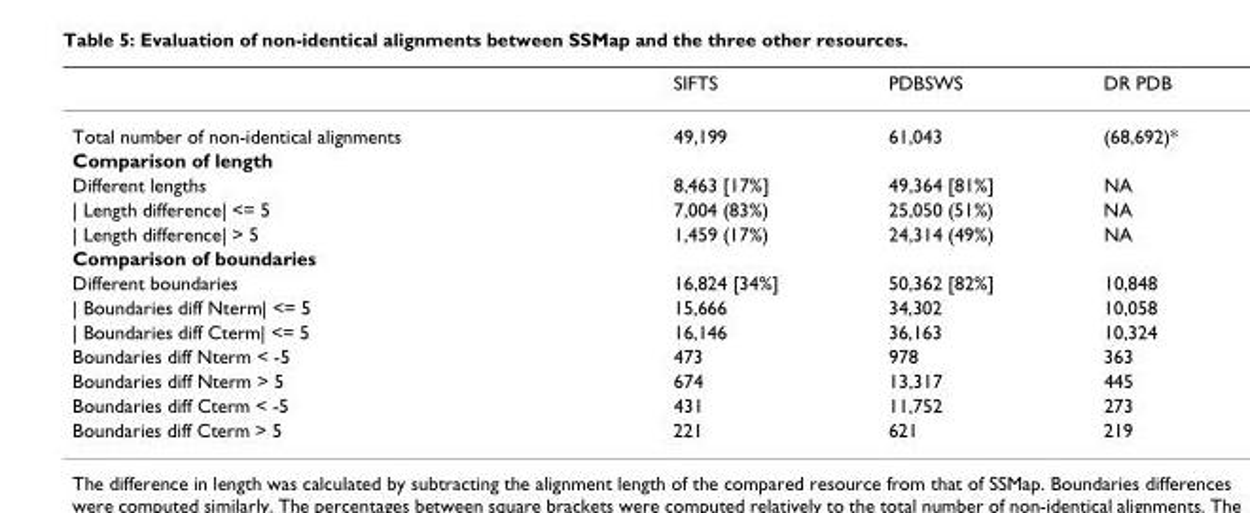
<table><thead><tr><td></td><td>SIFTS</td><td>PDBSWS</td><td>DR PDB</td></tr></thead><tbody><tr><td>Total number of non-identical alignments</td><td>49,199</td><td>61,043</td><td>(68,692)*</td></tr><tr><td colspan="4">Comparison of length</td></tr><tr><td>Different lengths</td><td>8,463 [17%]</td><td>49,364 [81%]</td><td>NA</td></tr><tr><td>| Length difference| &lt;= 5</td><td>7,004 (83%)</td><td>25,050 (51%)</td><td>NA</td></tr><tr><td>| Length difference| &gt; 5</td><td>1,459 (17%)</td><td>24,314 (49%)</td><td>NA</td></tr><tr><td colspan="4">Comparison of boundaries</td></tr><tr><td>Different boundaries</td><td>16,824 [34%]</td><td>50,362 [82%]</td><td>10,848</td></tr><tr><td>| Boundaries diff Nterm| &lt;= 5</td><td>15,666</td><td>34,302</td><td>10,058</td></tr><tr><td>| Boundaries diff Cterm| &lt;= 5</td><td>16,146</td><td>36,163</td><td>10,324</td></tr><tr><td>Boundaries diff Nterm &lt; -5</td><td>473</td><td>978</td><td>363</td></tr><tr><td>Boundaries diff Nterm &gt; 5</td><td>674</td><td>13,317</td><td>445</td></tr><tr><td>Boundaries diff Cterm &lt; -5</td><td>431</td><td>11,752</td><td>273</td></tr><tr><td>Boundaries diff Cterm &gt; 5</td><td>221</td><td>621</td><td>219</td></tr></tbody></table>